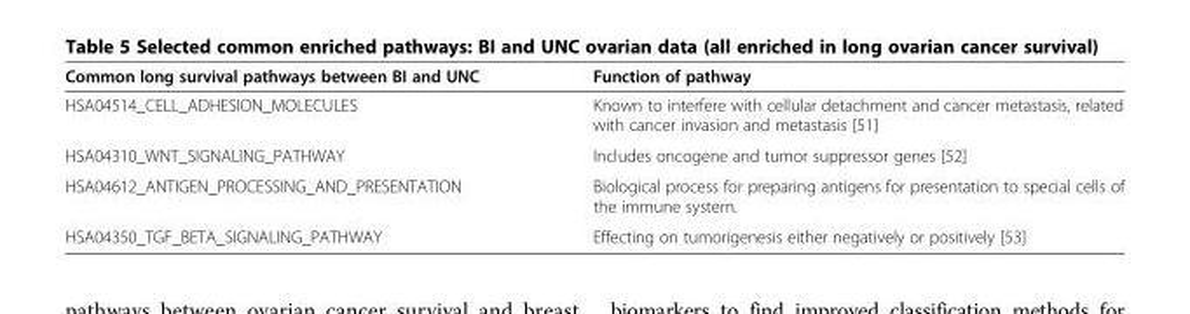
<table><thead><tr><td>Common long survival pathways between BI and UNC</td><td>Function of pathway</td></tr></thead><tbody><tr><td>HSA04514_CELL_ADHESION_MOLECULES</td><td>Known to interfere with cellular detachment and cancer metastasis, related with cancer invasion and metastasis [51]</td></tr><tr><td>HSA04310_WNT_SIGNALING_PATHWAY</td><td>Includes oncogene and tumor suppressor genes [52]</td></tr><tr><td>HSA04612_ANTIGEN_PROCESSING_AND_PRESENTATION</td><td>Biological process for preparing antigens for presentation to special cells of the immune system.</td></tr><tr><td>HSA04350_TGF_BETA_SIGNALING_PATHWAY</td><td>Effecting on tumorigenesis either negatively or positively [53]</td></tr></tbody></table>